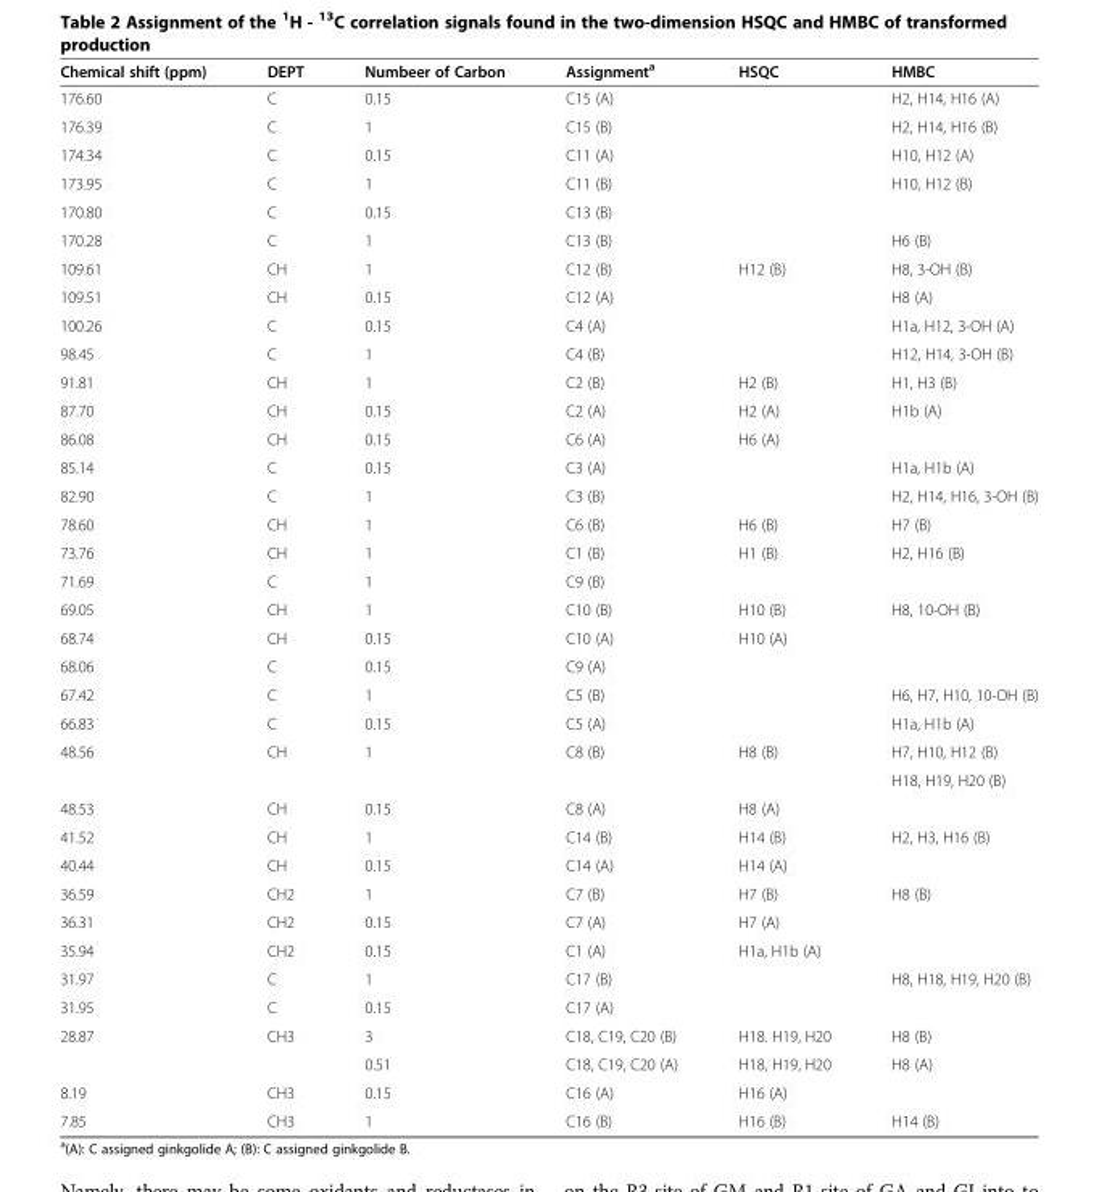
<table><thead><tr><td>Chemical shift (ppm)</td><td>DEPT</td><td>Numbeer of Carbon</td><td>Assignment<sup>a</sup></td><td>HSQC</td><td>HMBC</td></tr></thead><tbody><tr><td>176.60</td><td>C</td><td>0.15</td><td>C15 (A)</td><td></td><td>H2, H14, H16 (A)</td></tr><tr><td>176.39</td><td>C</td><td>1</td><td>C15 (B)</td><td></td><td>H2, H14, H16 (B)</td></tr><tr><td>174.34</td><td>C</td><td>0.15</td><td>C11 (A)</td><td></td><td>H10, H12 (A)</td></tr><tr><td>173.95</td><td>C</td><td>1</td><td>C11 (B)</td><td></td><td>H10, H12 (B)</td></tr><tr><td>170.80</td><td>C</td><td>0.15</td><td>C13 (B)</td><td></td><td></td></tr><tr><td>170.28</td><td>C</td><td>1</td><td>C13 (B)</td><td></td><td>H6 (B)</td></tr><tr><td>109.61</td><td>CH</td><td>1</td><td>C12 (B)</td><td>H12 (B)</td><td>H8, 3-OH (B)</td></tr><tr><td>109.51</td><td>CH</td><td>0.15</td><td>C12 (A)</td><td></td><td>H8 (A)</td></tr><tr><td>100.26</td><td>C</td><td>0.15</td><td>C4 (A)</td><td></td><td>H1a, H12, 3-OH (A)</td></tr><tr><td>98.45</td><td>C</td><td>1</td><td>C4 (B)</td><td></td><td>H12, H14, 3-OH (B)</td></tr><tr><td>91.81</td><td>CH</td><td>1</td><td>C2 (B)</td><td>H2 (B)</td><td>H1, H3 (B)</td></tr><tr><td>87.70</td><td>CH</td><td>0.15</td><td>C2 (A)</td><td>H2 (A)</td><td>H1b (A)</td></tr><tr><td>86.08</td><td>CH</td><td>0.15</td><td>C6 (A)</td><td>H6 (A)</td><td></td></tr><tr><td>85.14</td><td>C</td><td>0.15</td><td>C3 (A)</td><td></td><td>H1a, H1b (A)</td></tr><tr><td>82.90</td><td>C</td><td>1</td><td>C3 (B)</td><td></td><td>H2, H14, H16, 3-OH (B)</td></tr><tr><td>78.60</td><td>CH</td><td>1</td><td>C6 (B)</td><td>H6 (B)</td><td>H7 (B)</td></tr><tr><td>73.76</td><td>CH</td><td>1</td><td>C1 (B)</td><td>H1 (B)</td><td>H2, H16 (B)</td></tr><tr><td>71.69</td><td>C</td><td>1</td><td>C9 (B)</td><td></td><td></td></tr><tr><td>69.05</td><td>CH</td><td>1</td><td>C10 (B)</td><td>H10 (B)</td><td>H8, 10-OH (B)</td></tr><tr><td>68.74</td><td>CH</td><td>0.15</td><td>C10 (A)</td><td>H10 (A)</td><td></td></tr><tr><td>68.06</td><td>C</td><td>0.15</td><td>C9 (A)</td><td></td><td></td></tr><tr><td>67.42</td><td>C</td><td>1</td><td>C5 (B)</td><td></td><td>H6, H7, H10, 10-OH (B)</td></tr><tr><td>66.83</td><td>C</td><td>0.15</td><td>C5 (A)</td><td></td><td>H1a, H1b (A)</td></tr><tr><td rowspan="2">48.56</td><td rowspan="2">CH</td><td rowspan="2">1</td><td rowspan="2">C8 (B)</td><td rowspan="2">H8 (B)</td><td>H7, H10, H12 (B)</td></tr><tr><td>H18, H19, H20 (B)</td></tr><tr><td>48.53</td><td>CH</td><td>0.15</td><td>C8 (A)</td><td>H8 (A)</td><td></td></tr><tr><td>41.52</td><td>CH</td><td>1</td><td>C14 (B)</td><td>H14 (B)</td><td>H2, H3, H16 (B)</td></tr><tr><td>40.44</td><td>CH</td><td>0.15</td><td>C14 (A)</td><td>H14 (A)</td><td></td></tr><tr><td>36.59</td><td>CH2</td><td>1</td><td>C7 (B)</td><td>H7 (B)</td><td>H8 (B)</td></tr><tr><td>36.31</td><td>CH2</td><td>0.15</td><td>C7 (A)</td><td>H7 (A)</td><td></td></tr><tr><td>35.94</td><td>CH2</td><td>0.15</td><td>C1 (A)</td><td>H1a, H1b (A)</td><td></td></tr><tr><td>31.97</td><td>C</td><td>1</td><td>C17 (B)</td><td></td><td>H8, H18, H19, H20 (B)</td></tr><tr><td>31.95</td><td>C</td><td>0.15</td><td>C17 (A)</td><td></td><td></td></tr><tr><td rowspan="2">28.87</td><td rowspan="2">CH3</td><td>3</td><td>C18, C19, C20 (B)</td><td>H18. H19, H20</td><td>H8 (B)</td></tr><tr><td>0.51</td><td>C18, C19, C20 (A)</td><td>H18, H19, H20</td><td>H8 (A)</td></tr><tr><td>8.19</td><td>CH3</td><td>0.15</td><td>C16 (A)</td><td>H16 (A)</td><td></td></tr><tr><td>7.85</td><td>CH3</td><td>1</td><td>C16 (B)</td><td>H16 (B)</td><td>H14 (B)</td></tr></tbody></table>